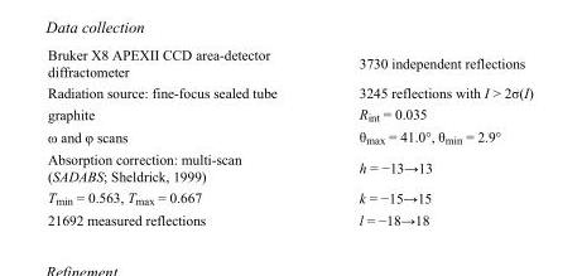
<table><tbody><tr><td>Bruker X8 APEXII CCD area-detector diffractometer</td><td>3730 independent reflections</td></tr><tr><td>Radiation source: fine-focus sealed tube</td><td>3245 reflections with I &gt; 2σ(I)</td></tr><tr><td>graphite</td><td>R<sub>int</sub> = 0.035</td></tr><tr><td>ω and φ scans</td><td>θ<sub>max</sub> = 41.0°, θ<sub>min</sub> = 2.9°</td></tr><tr><td>Absorption correction: multi-scan (SADABS; Sheldrick, 1999)</td><td>h = −13→13</td></tr><tr><td>T<sub>min</sub> = 0.563, T<sub>max</sub> = 0.667</td><td>k = −15→15</td></tr><tr><td>21692 measured reflections</td><td>l = −18→18</td></tr></tbody></table>